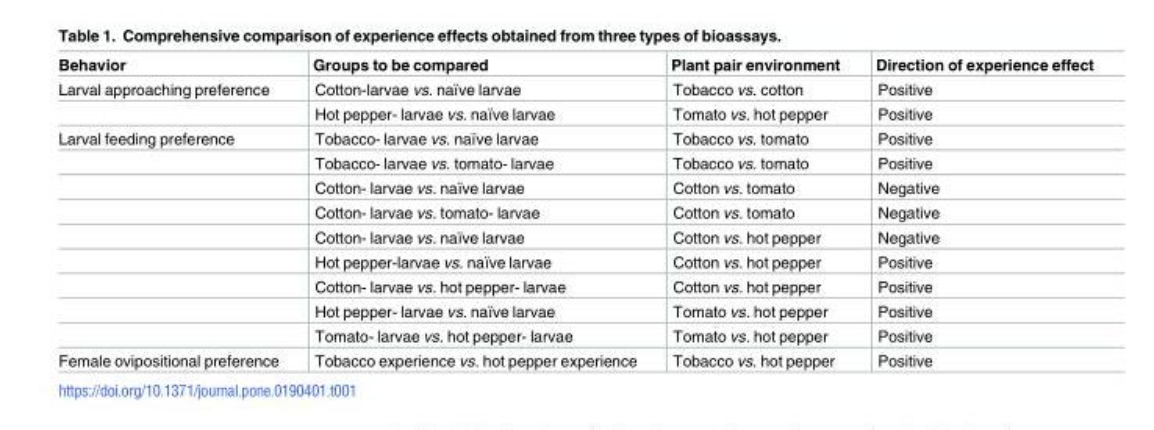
<table><thead><tr><td>Behavior</td><td>Groups to be compared</td><td>Plant pair environment</td><td>Direction of experience effect</td></tr></thead><tbody><tr><td rowspan="2">Larval approaching preference</td><td>Cotton-larvae vs. naïve larvae</td><td>Tobacco vs. cotton</td><td>Positive</td></tr><tr><td>Hot pepper- larvae vs. naïve larvae</td><td>Tomato vs. hot pepper</td><td>Positive</td></tr><tr><td rowspan="9">Larval feeding preference</td><td>Tobacco- larvae vs. naïve larvae</td><td>Tobacco vs. tomato</td><td>Positive</td></tr><tr><td>Tobacco- larvae vs. tomato- larvae</td><td>Tobacco vs. tomato</td><td>Positive</td></tr><tr><td>Cotton- larvae vs. naïve larvae</td><td>Cotton vs. tomato</td><td>Negative</td></tr><tr><td>Cotton- larvae vs. tomato- larvae</td><td>Cotton vs. tomato</td><td>Negative</td></tr><tr><td>Cotton- larvae vs. naïve larvae</td><td>Cotton vs. hot pepper</td><td>Negative</td></tr><tr><td>Hot pepper-larvae vs. naïve larvae</td><td>Cotton vs. hot pepper</td><td>Positive</td></tr><tr><td>Cotton- larvae vs. hot pepper- larvae</td><td>Cotton vs. hot pepper</td><td>Positive</td></tr><tr><td>Hot pepper- larvae vs. naïve larvae</td><td>Tomato vs. hot pepper</td><td>Positive</td></tr><tr><td>Tomato- larvae vs. hot pepper- larvae</td><td>Tomato vs. hot pepper</td><td>Positive</td></tr><tr><td>Female ovipositional preference</td><td>Tobacco experience vs. hot pepper experience</td><td>Tobacco vs. hot pepper</td><td>Positive</td></tr></tbody></table>